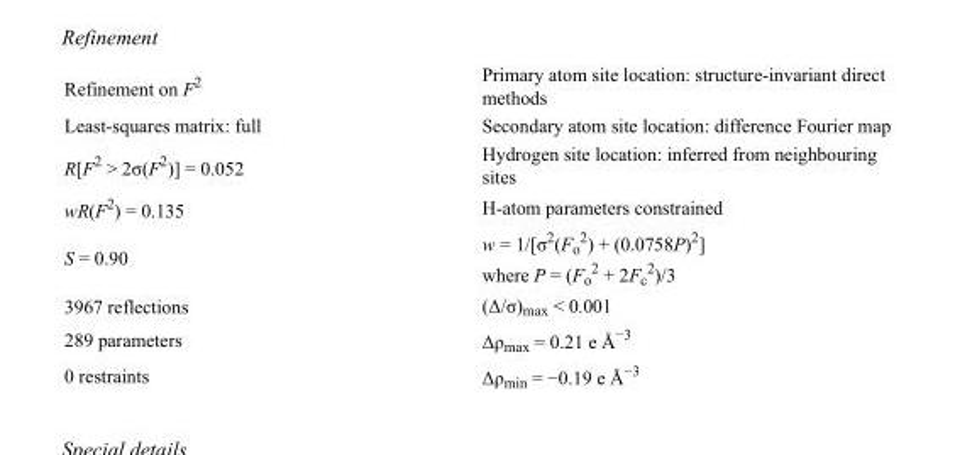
<table><tbody><tr><td>Refinement on F<sup>2</sup></td><td>Primary atom site location: structure-invariant direct methods</td></tr><tr><td>Least-squares matrix: full</td><td>Secondary atom site location: difference Fourier map</td></tr><tr><td>R[F<sup>2</sup> &gt; 2σ(F<sup>2</sup>)] = 0.052</td><td>Hydrogen site location: inferred from neighbouring sites</td></tr><tr><td>wR(F<sup>2</sup>) = 0.135</td><td>H-atom parameters constrained</td></tr><tr><td>S = 0.90</td><td>w = 1/[σ<sup>2</sup>(F<sub>o</sub> <sup>2</sup>) + (0.0758P)<sup>2</sup>] where P = (F<sub>o</sub> <sup>2</sup> + 2F<sub>c</sub> <sup>2</sup>)/3</td></tr><tr><td>3967 reflections</td><td>(Δ/σ)<sub>max</sub> &lt; 0.001</td></tr><tr><td>289 parameters</td><td>Δρ<sub>max</sub> = 0.21 e Å<sup>−3</sup></td></tr><tr><td>0 restraints</td><td>Δρ<sub>min</sub> = −0.19 e Å<sup>−3</sup></td></tr></tbody></table>